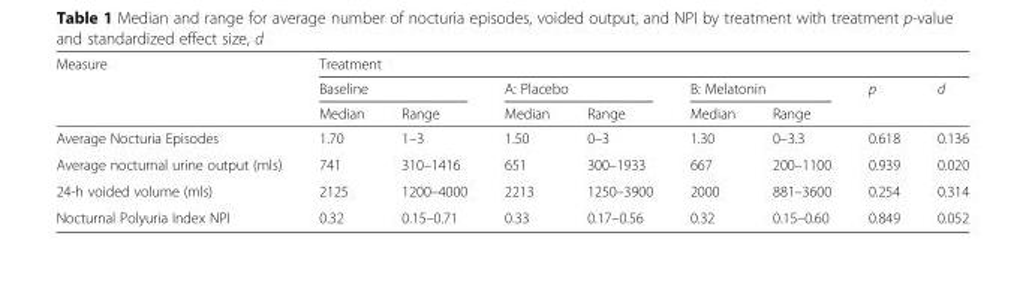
<table><thead><tr><td rowspan="3">Measure</td><td colspan="8">Treatment</td></tr><tr><td colspan="2">Baseline</td><td colspan="2">A: Placebo</td><td colspan="2">B: Melatonin</td><td rowspan="2">p</td><td rowspan="2">d</td></tr><tr><td>Median</td><td>Range</td><td>Median</td><td>Range</td><td>Median</td><td>Range</td></tr></thead><tbody><tr><td>Average Nocturia Episodes</td><td>1.70</td><td>1–3</td><td>1.50</td><td>0–3</td><td>1.30</td><td>0–3.3</td><td>0.618</td><td>0.136</td></tr><tr><td>Average nocturnal urine output (mls)</td><td>741</td><td>310–1416</td><td>651</td><td>300–1933</td><td>667</td><td>200–1100</td><td>0.939</td><td>0.020</td></tr><tr><td>24-h voided volume (mls)</td><td>2125</td><td>1200–4000</td><td>2213</td><td>1250–3900</td><td>2000</td><td>881–3600</td><td>0.254</td><td>0.314</td></tr><tr><td>Nocturnal Polyuria Index NPI</td><td>0.32</td><td>0.15–0.71</td><td>0.33</td><td>0.17–0.56</td><td>0.32</td><td>0.15–0.60</td><td>0.849</td><td>0.052</td></tr></tbody></table>